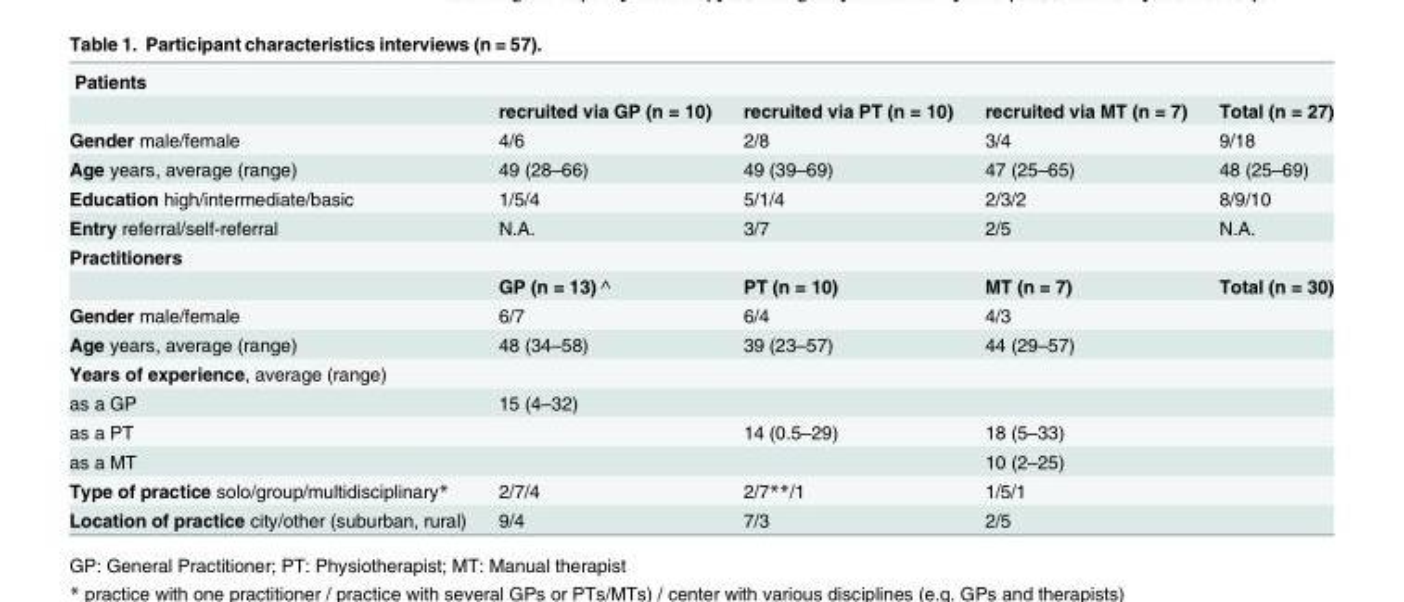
<table><tbody><tr><td colspan="5">Patients</td></tr><tr><td></td><td>recruited via GP (n = 10)</td><td>recruited via PT (n = 10)</td><td>recruited via MT (n = 7)</td><td>Total (n = 27)</td></tr><tr><td>Gender male/female</td><td>4/6</td><td>2/8</td><td>3/4</td><td>9/18</td></tr><tr><td>Age years, average (range)</td><td>49 (28–66)</td><td>49 (39–69)</td><td>47 (25–65)</td><td>48 (25–69)</td></tr><tr><td>Education high/intermediate/basic</td><td>1/5/4</td><td>5/1/4</td><td>2/3/2</td><td>8/9/10</td></tr><tr><td>Entry referral/self-referral</td><td>N.A.</td><td>3/7</td><td>2/5</td><td>N.A.</td></tr><tr><td colspan="5">Practitioners</td></tr><tr><td></td><td>GP (n = 13) ^</td><td>PT (n = 10)</td><td>MT (n = 7)</td><td>Total (n = 30)</td></tr><tr><td>Gender male/female</td><td>6/7</td><td>6/4</td><td>4/3</td><td></td></tr><tr><td>Age years, average (range)</td><td>48 (34–58)</td><td>39 (23–57)</td><td>44 (29–57)</td><td></td></tr><tr><td colspan="5">Years of experience, average (range)</td></tr><tr><td>as a GP</td><td>15 (4–32)</td><td></td><td></td><td></td></tr><tr><td>as a PT</td><td></td><td>14 (0.5–29)</td><td>18 (5–33)</td><td></td></tr><tr><td>as a MT</td><td></td><td></td><td>10 (2–25)</td><td></td></tr><tr><td>Type of practice solo/group/multidisciplinary*</td><td>2/7/4</td><td>2/7**/1</td><td>1/5/1</td><td></td></tr><tr><td>Location of practice city/other (suburban, rural)</td><td>9/4</td><td>7/3</td><td>2/5</td><td></td></tr></tbody></table>